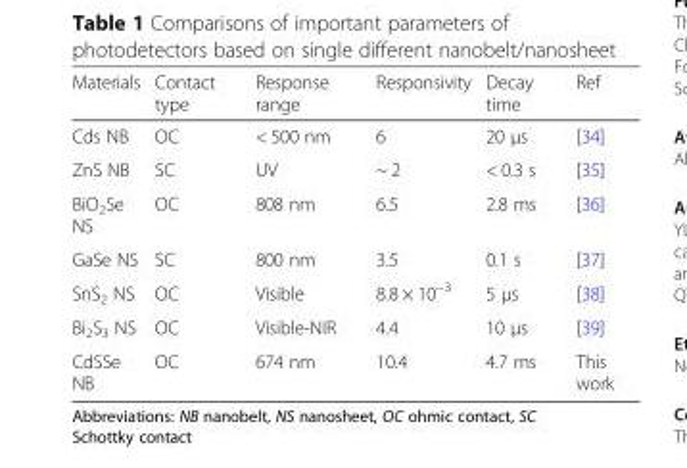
<table><thead><tr><td>Materials</td><td>Contact type</td><td>Response range</td><td>Responsivity</td><td>Decay time</td><td>Ref</td></tr></thead><tbody><tr><td>Cds NB</td><td>OC</td><td>&lt; 500 nm</td><td>6</td><td>20 μs</td><td>[34]</td></tr><tr><td>ZnS NB</td><td>SC</td><td>UV</td><td>~ 2</td><td>&lt; 0.3 s</td><td>[35]</td></tr><tr><td>BiO<sub>2</sub>Se NS</td><td>OC</td><td>808 nm</td><td>6.5</td><td>2.8 ms</td><td>[36]</td></tr><tr><td>GaSe NS</td><td>SC</td><td>800 nm</td><td>3.5</td><td>0.1 s</td><td>[37]</td></tr><tr><td>SnS<sub>2</sub> NS</td><td>OC</td><td>Visible</td><td>8.8 × 10<sup>−3</sup></td><td>5 μs</td><td>[38]</td></tr><tr><td>Bi<sub>2</sub>S<sub>3</sub> NS</td><td>OC</td><td>Visible-NIR</td><td>4.4</td><td>10 μs</td><td>[39]</td></tr><tr><td>CdSSe NB</td><td>OC</td><td>674 nm</td><td>10.4</td><td>4.7 ms</td><td>This work</td></tr></tbody></table>